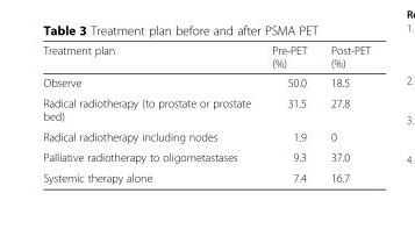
<table><thead><tr><td>Treatment plan</td><td>Pre-PET (%)</td><td>Post-PET (%)</td></tr></thead><tbody><tr><td>Observe</td><td>50.0</td><td>18.5</td></tr><tr><td>Radical radiotherapy (to prostate or prostate bed)</td><td>31.5</td><td>27.8</td></tr><tr><td>Radical radiotherapy including nodes</td><td>1.9</td><td>0</td></tr><tr><td>Palliative radiotherapy to oligometastases</td><td>9.3</td><td>37.0</td></tr><tr><td>Systemic therapy alone</td><td>7.4</td><td>16.7</td></tr></tbody></table>